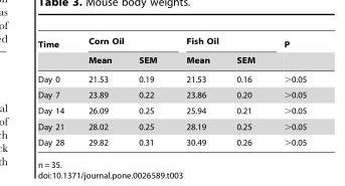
<table><thead><tr><td rowspan="2">Time</td><td colspan="2">Corn Oil</td><td colspan="2">Fish Oil</td><td rowspan="2">P</td></tr><tr><td>Mean</td><td>SEM</td><td>Mean</td><td>SEM</td></tr></thead><tbody><tr><td>Day 0</td><td>21.53</td><td>0.19</td><td>21.53</td><td>0.16</td><td>&gt;0.05</td></tr><tr><td>Day 7</td><td>23.89</td><td>0.22</td><td>23.86</td><td>0.20</td><td>&gt;0.05</td></tr><tr><td>Day 14</td><td>26.09</td><td>0.25</td><td>25.94</td><td>0.21</td><td>&gt;0.05</td></tr><tr><td>Day 21</td><td>28.02</td><td>0.25</td><td>28.19</td><td>0.25</td><td>&gt;0.05</td></tr><tr><td>Day 28</td><td>29.82</td><td>0.31</td><td>30.49</td><td>0.26</td><td>&gt;0.05</td></tr></tbody></table>